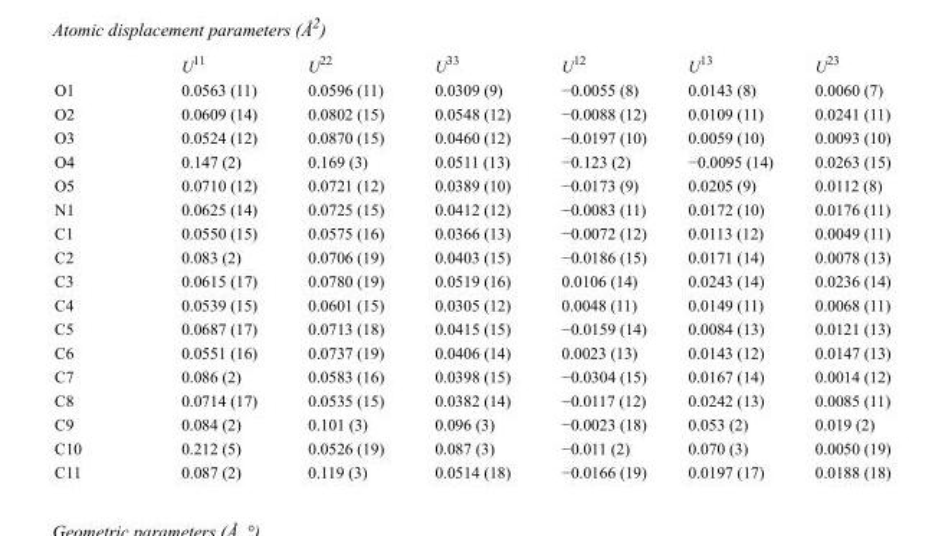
<table><thead><tr><td></td><td>U<sup>11</sup></td><td>U<sup>22</sup></td><td>U<sup>33</sup></td><td>U<sup>12</sup></td><td>U<sup>13</sup></td><td>U<sup>23</sup></td></tr></thead><tbody><tr><td>O1</td><td>0.0563 (11)</td><td>0.0596 (11)</td><td>0.0309 (9)</td><td>−0.0055 (8)</td><td>0.0143 (8)</td><td>0.0060 (7)</td></tr><tr><td>O2</td><td>0.0609 (14)</td><td>0.0802 (15)</td><td>0.0548 (12)</td><td>−0.0088 (12)</td><td>0.0109 (11)</td><td>0.0241 (11)</td></tr><tr><td>O3</td><td>0.0524 (12)</td><td>0.0870 (15)</td><td>0.0460 (12)</td><td>−0.0197 (10)</td><td>0.0059 (10)</td><td>0.0093 (10)</td></tr><tr><td>O4</td><td>0.147 (2)</td><td>0.169 (3)</td><td>0.0511 (13)</td><td>−0.123 (2)</td><td>−0.0095 (14)</td><td>0.0263 (15)</td></tr><tr><td>O5</td><td>0.0710 (12)</td><td>0.0721 (12)</td><td>0.0389 (10)</td><td>−0.0173 (9)</td><td>0.0205 (9)</td><td>0.0112 (8)</td></tr><tr><td>N1</td><td>0.0625 (14)</td><td>0.0725 (15)</td><td>0.0412 (12)</td><td>−0.0083 (11)</td><td>0.0172 (10)</td><td>0.0176 (11)</td></tr><tr><td>C1</td><td>0.0550 (15)</td><td>0.0575 (16)</td><td>0.0366 (13)</td><td>−0.0072 (12)</td><td>0.0113 (12)</td><td>0.0049 (11)</td></tr><tr><td>C2</td><td>0.083 (2)</td><td>0.0706 (19)</td><td>0.0403 (15)</td><td>−0.0186 (15)</td><td>0.0171 (14)</td><td>0.0078 (13)</td></tr><tr><td>C3</td><td>0.0615 (17)</td><td>0.0780 (19)</td><td>0.0519 (16)</td><td>0.0106 (14)</td><td>0.0243 (14)</td><td>0.0236 (14)</td></tr><tr><td>C4</td><td>0.0539 (15)</td><td>0.0601 (15)</td><td>0.0305 (12)</td><td>0.0048 (11)</td><td>0.0149 (11)</td><td>0.0068 (11)</td></tr><tr><td>C5</td><td>0.0687 (17)</td><td>0.0713 (18)</td><td>0.0415 (15)</td><td>−0.0159 (14)</td><td>0.0084 (13)</td><td>0.0121 (13)</td></tr><tr><td>C6</td><td>0.0551 (16)</td><td>0.0737 (19)</td><td>0.0406 (14)</td><td>0.0023 (13)</td><td>0.0143 (12)</td><td>0.0147 (13)</td></tr><tr><td>C7</td><td>0.086 (2)</td><td>0.0583 (16)</td><td>0.0398 (15)</td><td>−0.0304 (15)</td><td>0.0167 (14)</td><td>0.0014 (12)</td></tr><tr><td>C8</td><td>0.0714 (17)</td><td>0.0535 (15)</td><td>0.0382 (14)</td><td>−0.0117 (12)</td><td>0.0242 (13)</td><td>0.0085 (11)</td></tr><tr><td>C9</td><td>0.084 (2)</td><td>0.101 (3)</td><td>0.096 (3)</td><td>−0.0023 (18)</td><td>0.053 (2)</td><td>0.019 (2)</td></tr><tr><td>C10</td><td>0.212 (5)</td><td>0.0526 (19)</td><td>0.087 (3)</td><td>−0.011 (2)</td><td>0.070 (3)</td><td>0.0050 (19)</td></tr><tr><td>C11</td><td>0.087 (2)</td><td>0.119 (3)</td><td>0.0514 (18)</td><td>−0.0166 (19)</td><td>0.0197 (17)</td><td>0.0188 (18)</td></tr></tbody></table>